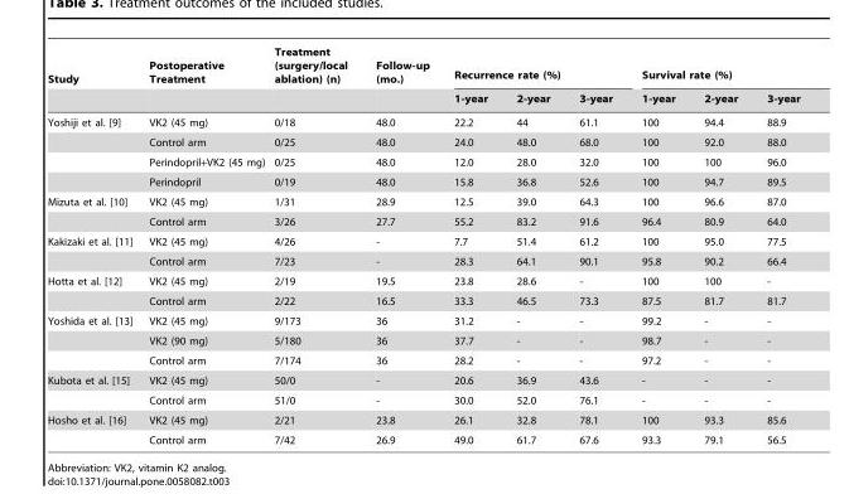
<table><thead><tr><td rowspan="2">Study</td><td rowspan="2">Postoperative Treatment</td><td rowspan="2">Treatment (surgery/local ablation) (n)</td><td rowspan="2">Follow-up (mo.)</td><td colspan="3">Recurrence rate (%)</td><td colspan="3">Survival rate (%)</td></tr><tr><td>1-year</td><td>2-year</td><td>3-year</td><td>1-year</td><td>2-year</td><td>3-year</td></tr></thead><tbody><tr><td rowspan="4">Yoshiji et al. [9]</td><td>VK2 (45 mg)</td><td>0/18</td><td>48.0</td><td>22.2</td><td>44</td><td>61.1</td><td>100</td><td>94.4</td><td>88.9</td></tr><tr><td>Control arm</td><td>0/25</td><td>48.0</td><td>24.0</td><td>48.0</td><td>68.0</td><td>100</td><td>92.0</td><td>88.0</td></tr><tr><td>Perindopril+VK2 (45 mg)</td><td>0/25</td><td>48.0</td><td>12.0</td><td>28.0</td><td>32.0</td><td>100</td><td>100</td><td>96.0</td></tr><tr><td>Perindopril</td><td>0/19</td><td>48.0</td><td>15.8</td><td>36.8</td><td>52.6</td><td>100</td><td>94.7</td><td>89.5</td></tr><tr><td rowspan="2">Mizuta et al. [10]</td><td>VK2 (45 mg)</td><td>1/31</td><td>28.9</td><td>12.5</td><td>39.0</td><td>64.3</td><td>100</td><td>96.6</td><td>87.0</td></tr><tr><td>Control arm</td><td>3/26</td><td>27.7</td><td>55.2</td><td>83.2</td><td>91.6</td><td>96.4</td><td>80.9</td><td>64.0</td></tr><tr><td rowspan="2">Kakizaki et al. [11]</td><td>VK2 (45 mg)</td><td>4/26</td><td>-</td><td>7.7</td><td>51.4</td><td>61.2</td><td>100</td><td>95.0</td><td>77.5</td></tr><tr><td>Control arm</td><td>7/23</td><td>-</td><td>28.3</td><td>64.1</td><td>90.1</td><td>95.8</td><td>90.2</td><td>66.4</td></tr><tr><td rowspan="2">Hotta et al. [12]</td><td>VK2 (45 mg)</td><td>2/19</td><td>19.5</td><td>23.8</td><td>28.6</td><td>-</td><td>100</td><td>100</td><td>-</td></tr><tr><td>Control arm</td><td>2/22</td><td>16.5</td><td>33.3</td><td>46.5</td><td>73.3</td><td>87.5</td><td>81.7</td><td>81.7</td></tr><tr><td rowspan="3">Yoshida et al. [13]</td><td>VK2 (45 mg)</td><td>9/173</td><td>36</td><td>31.2</td><td>-</td><td>-</td><td>99.2</td><td>-</td><td>-</td></tr><tr><td>VK2 (90 mg)</td><td>5/180</td><td>36</td><td>37.7</td><td>-</td><td>-</td><td>98.7</td><td>-</td><td>-</td></tr><tr><td>Control arm</td><td>7/174</td><td>36</td><td>28.2</td><td>-</td><td>-</td><td>97.2</td><td>-</td><td>-</td></tr><tr><td rowspan="2">Kubota et al. [15]</td><td>VK2 (45 mg)</td><td>50/0</td><td>-</td><td>20.6</td><td>36.9</td><td>43.6</td><td>-</td><td>-</td><td>-</td></tr><tr><td>Control arm</td><td>51/0</td><td>-</td><td>30.0</td><td>52.0</td><td>76.1</td><td>-</td><td>-</td><td>-</td></tr><tr><td rowspan="2">Hosho et al. [16]</td><td>VK2 (45 mg)</td><td>2/21</td><td>23.8</td><td>26.1</td><td>32.8</td><td>78.1</td><td>100</td><td>93.3</td><td>85.6</td></tr><tr><td>Control arm</td><td>7/42</td><td>26.9</td><td>49.0</td><td>61.7</td><td>67.6</td><td>93.3</td><td>79.1</td><td>56.5</td></tr></tbody></table>